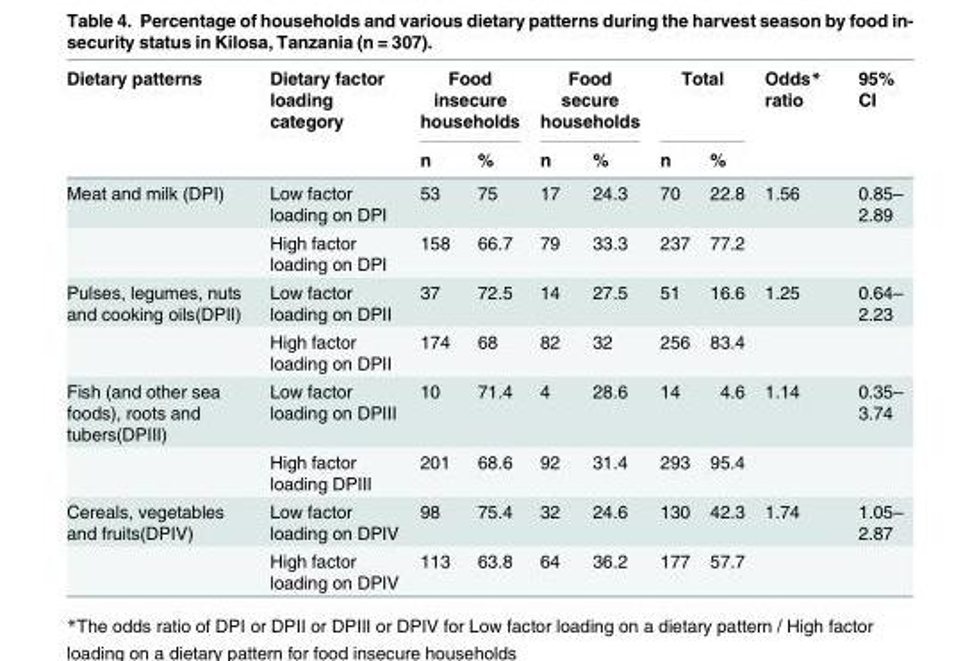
<table><thead><tr><td rowspan="2">Dietary patterns</td><td rowspan="2">Dietary factor loading category</td><td colspan="2">Food insecure households</td><td colspan="2">Food secure households</td><td colspan="2">Total</td><td rowspan="2">Odds* ratio</td><td rowspan="2">95% CI</td></tr><tr><td>n</td><td>%</td><td>n</td><td>%</td><td>n</td><td>%</td></tr></thead><tbody><tr><td rowspan="2">Meat and milk (DPI)</td><td>Low factor loading on DPI</td><td>53</td><td>75</td><td>17</td><td>24.3</td><td>70</td><td>22.8</td><td>1.56</td><td>0.85– 2.89</td></tr><tr><td>High factor loading on DPI</td><td>158</td><td>66.7</td><td>79</td><td>33.3</td><td>237</td><td>77.2</td><td></td><td></td></tr><tr><td rowspan="2">Pulses, legumes, nuts and cooking oils(DPII)</td><td>Low factor loading on DPII</td><td>37</td><td>72.5</td><td>14</td><td>27.5</td><td>51</td><td>16.6</td><td>1.25</td><td>0.64– 2.23</td></tr><tr><td>High factor loading on DPII</td><td>174</td><td>68</td><td>82</td><td>32</td><td>256</td><td>83.4</td><td></td><td></td></tr><tr><td rowspan="2">Fish (and other sea foods), roots and tubers(DPIII)</td><td>Low factor loading on DPIII</td><td>10</td><td>71.4</td><td>4</td><td>28.6</td><td>14</td><td>4.6</td><td>1.14</td><td>0.35– 3.74</td></tr><tr><td>High factor loading DPIII</td><td>201</td><td>68.6</td><td>92</td><td>31.4</td><td>293</td><td>95.4</td><td></td><td></td></tr><tr><td rowspan="2">Cereals, vegetables and fruits(DPIV)</td><td>Low factor loading on DPIV</td><td>98</td><td>75.4</td><td>32</td><td>24.6</td><td>130</td><td>42.3</td><td>1.74</td><td>1.05– 2.87</td></tr><tr><td>High factor loading on DPIV</td><td>113</td><td>63.8</td><td>64</td><td>36.2</td><td>177</td><td>57.7</td><td></td><td></td></tr></tbody></table>